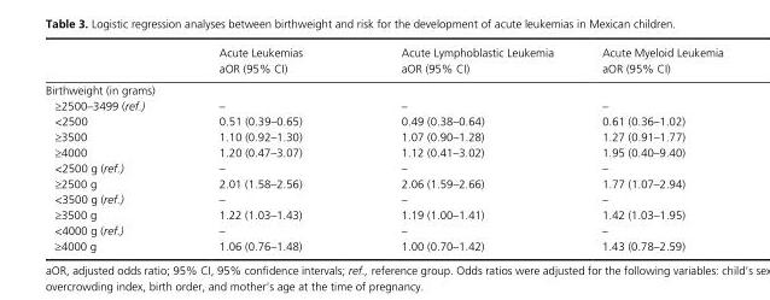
<table><thead><tr><td></td><td>Acute Leukemias aOR (95% CI)</td><td>Acute Lymphoblastic Leukemia aOR (95% CI)</td><td>Acute Myeloid Leukemia aOR (95% CI)</td></tr></thead><tbody><tr><td colspan="4">Birthweight (in grams)</td></tr><tr><td>≥2500–3499 (ref.)</td><td>–</td><td>–</td><td>–</td></tr><tr><td>&lt;2500</td><td>0.51 (0.39–0.65)</td><td>0.49 (0.38–0.64)</td><td>0.61 (0.36–1.02)</td></tr><tr><td>≥3500</td><td>1.10 (0.92–1.30)</td><td>1.07 (0.90–1.28)</td><td>1.27 (0.91–1.77)</td></tr><tr><td>≥4000</td><td>1.20 (0.47–3.07)</td><td>1.12 (0.41–3.02)</td><td>1.95 (0.40–9.40)</td></tr><tr><td>&lt;2500 g (ref.)</td><td>–</td><td>–</td><td>–</td></tr><tr><td>≥2500 g</td><td>2.01 (1.58–2.56)</td><td>2.06 (1.59–2.66)</td><td>1.77 (1.07–2.94)</td></tr><tr><td>&lt;3500 g (ref.)</td><td>–</td><td>–</td><td>–</td></tr><tr><td>≥3500 g</td><td>1.22 (1.03–1.43)</td><td>1.19 (1.00–1.41)</td><td>1.42 (1.03–1.95)</td></tr><tr><td>&lt;4000 g (ref.)</td><td>–</td><td>–</td><td>–</td></tr><tr><td>≥4000 g</td><td>1.06 (0.76–1.48)</td><td>1.00 (0.70–1.42)</td><td>1.43 (0.78–2.59)</td></tr></tbody></table>